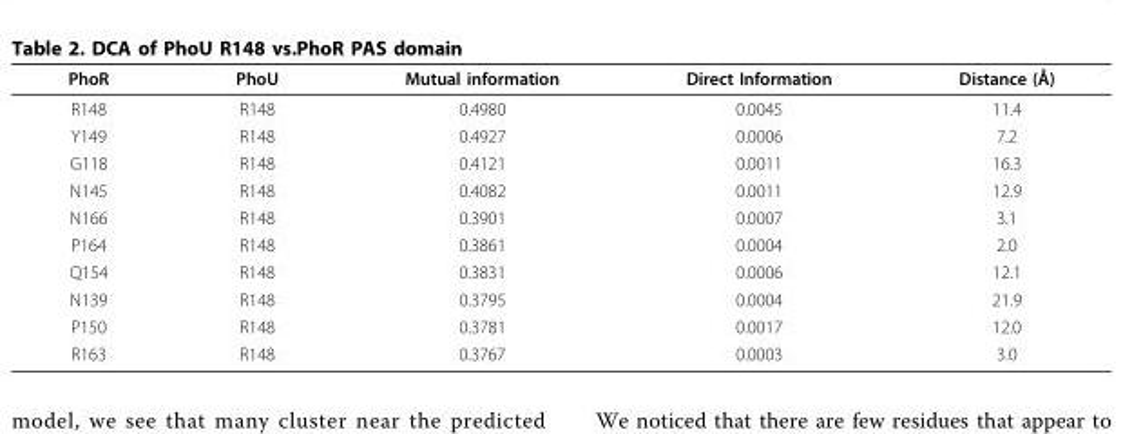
<table><thead><tr><td>PhoR</td><td>PhoU</td><td>Mutual information</td><td>Direct Information</td><td>Distance (Å)</td></tr></thead><tbody><tr><td>R148</td><td>R148</td><td>0.4980</td><td>0.0045</td><td>11.4</td></tr><tr><td>Y149</td><td>R148</td><td>0.4927</td><td>0.0006</td><td>7.2</td></tr><tr><td>G118</td><td>R148</td><td>0.4121</td><td>0.0011</td><td>16.3</td></tr><tr><td>N145</td><td>R148</td><td>0.4082</td><td>0.0011</td><td>12.9</td></tr><tr><td>N166</td><td>R148</td><td>0.3901</td><td>0.0007</td><td>3.1</td></tr><tr><td>P164</td><td>R148</td><td>0.3861</td><td>0.0004</td><td>2.0</td></tr><tr><td>Q154</td><td>R148</td><td>0.3831</td><td>0.0006</td><td>12.1</td></tr><tr><td>N139</td><td>R148</td><td>0.3795</td><td>0.0004</td><td>21.9</td></tr><tr><td>P150</td><td>R148</td><td>0.3781</td><td>0.0017</td><td>12.0</td></tr><tr><td>R163</td><td>R148</td><td>0.3767</td><td>0.0003</td><td>3.0</td></tr></tbody></table>